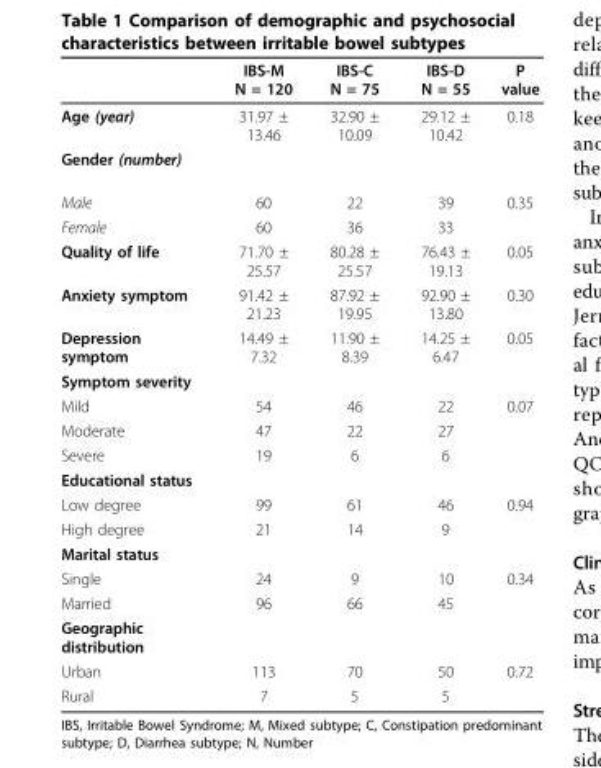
<table><thead><tr><td></td><td>IBS-M N = 120</td><td>IBS-C N = 75</td><td>IBS-D N = 55</td><td>P value</td></tr></thead><tbody><tr><td>Age (year)</td><td>31.97 ± 13.46</td><td>32.90 ± 10.09</td><td>29.12 ± 10.42</td><td>0.18</td></tr><tr><td colspan="5">Gender (number)</td></tr><tr><td>Male</td><td>60</td><td>22</td><td>39</td><td>0.35</td></tr><tr><td>Female</td><td>60</td><td>36</td><td>33</td><td></td></tr><tr><td>Quality of life</td><td>71.70 ± 25.57</td><td>80.28 ± 25.57</td><td>76.43 ± 19.13</td><td>0.05</td></tr><tr><td>Anxiety symptom</td><td>91.42 ± 21.23</td><td>87.92 ± 19.95</td><td>92.90 ± 13.80</td><td>0.30</td></tr><tr><td>Depression symptom</td><td>14.49 ± 7.32</td><td>11.90 ± 8.39</td><td>14.25 ± 6.47</td><td>0.05</td></tr><tr><td colspan="5">Symptom severity</td></tr><tr><td>Mild</td><td>54</td><td>46</td><td>22</td><td>0.07</td></tr><tr><td>Moderate</td><td>47</td><td>22</td><td>27</td><td></td></tr><tr><td>Severe</td><td>19</td><td>6</td><td>6</td><td></td></tr><tr><td colspan="5">Educational status</td></tr><tr><td>Low degree</td><td>99</td><td>61</td><td>46</td><td>0.94</td></tr><tr><td>High degree</td><td>21</td><td>14</td><td>9</td><td></td></tr><tr><td colspan="5">Marital status</td></tr><tr><td>Single</td><td>24</td><td>9</td><td>10</td><td>0.34</td></tr><tr><td>Married</td><td>96</td><td>66</td><td>45</td><td></td></tr><tr><td colspan="5">Geographic distribution</td></tr><tr><td>Urban</td><td>113</td><td>70</td><td>50</td><td>0.72</td></tr><tr><td>Rural</td><td>7</td><td>5</td><td>5</td><td></td></tr></tbody></table>